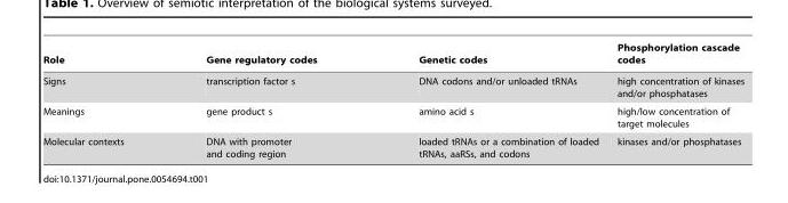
<table><thead><tr><td>Role</td><td>Gene regulatory codes</td><td>Genetic codes</td><td>Phosphorylation cascade codes</td></tr></thead><tbody><tr><td>Signs</td><td>transcription factor s</td><td>DNA codons and/or unloaded tRNAs</td><td>high concentration of kinases and/or phosphatases</td></tr><tr><td>Meanings</td><td>gene product s</td><td>amino acid s</td><td>high/low concentration of target molecules</td></tr><tr><td>Molecular contexts</td><td>DNA with promoter and coding region</td><td>loaded tRNAs or a combination of loaded tRNAs, aaRSs, and codons</td><td>kinases and/or phosphatases</td></tr></tbody></table>